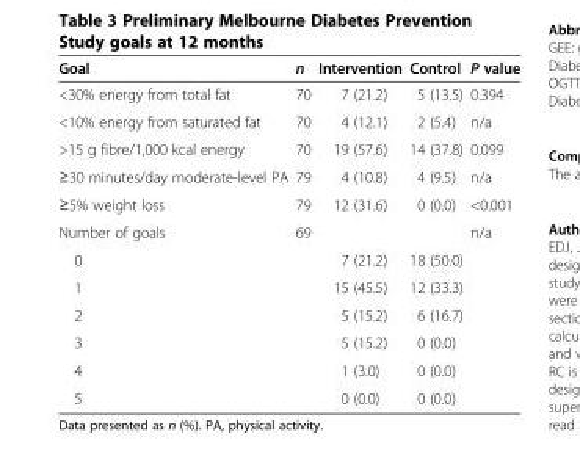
<table><thead><tr><td>Goal</td><td>n</td><td>Intervention</td><td>Control</td><td>P value</td></tr></thead><tbody><tr><td>&lt;30% energy from total fat</td><td>70</td><td>7 (21.2)</td><td>5 (13.5)</td><td>0.394</td></tr><tr><td>&lt;10% energy from saturated fat</td><td>70</td><td>4 (12.1)</td><td>2 (5.4)</td><td>n/a</td></tr><tr><td>&gt;15 g fibre/1,000 kcal energy</td><td>70</td><td>19 (57.6)</td><td>14 (37.8)</td><td>0.099</td></tr><tr><td>≥30 minutes/day moderate-level PA</td><td>79</td><td>4 (10.8)</td><td>4 (9.5)</td><td>n/a</td></tr><tr><td>≥5% weight loss</td><td>79</td><td>12 (31.6)</td><td>0 (0.0)</td><td>&lt;0.001</td></tr><tr><td>Number of goals</td><td>69</td><td></td><td></td><td>n/a</td></tr><tr><td>0</td><td></td><td>7 (21.2)</td><td>18 (50.0)</td><td></td></tr><tr><td>1</td><td></td><td>15 (45.5)</td><td>12 (33.3)</td><td></td></tr><tr><td>2</td><td></td><td>5 (15.2)</td><td>6 (16.7)</td><td></td></tr><tr><td>3</td><td></td><td>5 (15.2)</td><td>0 (0.0)</td><td></td></tr><tr><td>4</td><td></td><td>1 (3.0)</td><td>0 (0.0)</td><td></td></tr><tr><td>5</td><td></td><td>0 (0.0)</td><td>0 (0.0)</td><td></td></tr></tbody></table>